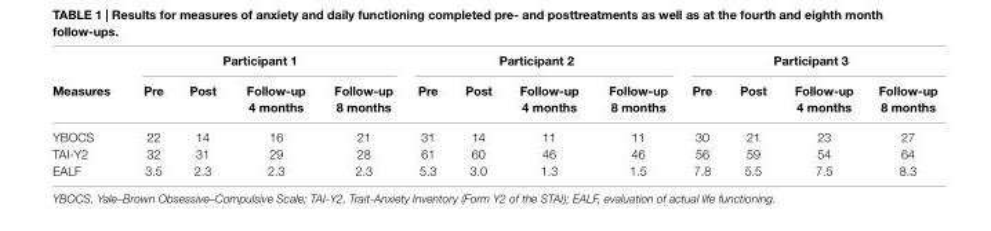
<table><thead><tr><td rowspan="2">Measures</td><td colspan="4">Participant 1</td><td colspan="4">Participant 2</td><td colspan="4">Participant 3</td></tr><tr><td>Pre</td><td>Post</td><td>Follow-up 4 months</td><td>Follow-up 8 months</td><td>Pre</td><td>Post</td><td>Follow-up 4 months</td><td>Follow-up 8 months</td><td>Pre</td><td>Post</td><td>Follow-up 4 months</td><td>Follow-up 8 months</td></tr></thead><tbody><tr><td>YBOCS</td><td>22</td><td>14</td><td>16</td><td>21</td><td>31</td><td>14</td><td>11</td><td>11</td><td>30</td><td>21</td><td>23</td><td>27</td></tr><tr><td>TAI-Y2</td><td>32</td><td>31</td><td>29</td><td>28</td><td>61</td><td>60</td><td>46</td><td>46</td><td>56</td><td>59</td><td>54</td><td>64</td></tr><tr><td>EALF</td><td>3.5</td><td>2.3</td><td>2.3</td><td>2.3</td><td>5.3</td><td>3.0</td><td>1.3</td><td>1.5</td><td>7.8</td><td>5.5</td><td>7.5</td><td>8.3</td></tr></tbody></table>